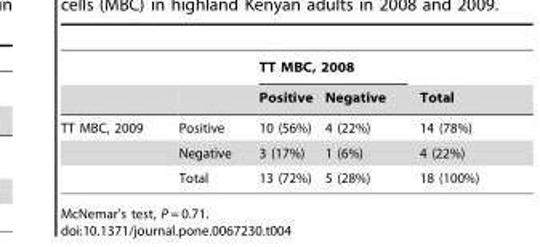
<table><thead><tr><td rowspan="2"></td><td rowspan="2"></td><td colspan="2">TT MBC, 2008</td><td rowspan="2">Total</td></tr><tr><td>Positive</td><td>Negative</td></tr></thead><tbody><tr><td rowspan="3">TT MBC, 2009</td><td>Positive</td><td>10 (56%)</td><td>4 (22%)</td><td>14 (78%)</td></tr><tr><td>Negative</td><td>3 (17%)</td><td>1 (6%)</td><td>4 (22%)</td></tr><tr><td>Total</td><td>13 (72%)</td><td>5 (28%)</td><td>18 (100%)</td></tr></tbody></table>